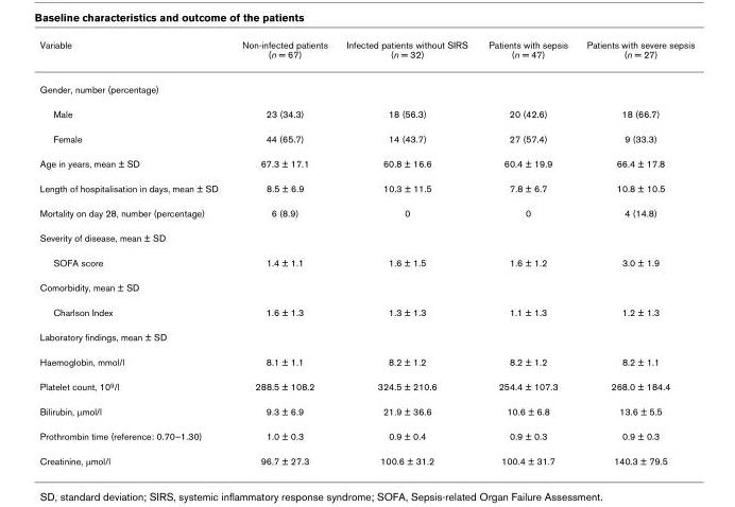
<table><thead><tr><td>Variable</td><td>Non-infected patients (n = 67)</td><td>Infected patients without SIRS (n = 32)</td><td>Patients with sepsis (n = 47)</td><td>Patients with severe sepsis (n = 27)</td></tr></thead><tbody><tr><td colspan="5">Gender, number (percentage)</td></tr><tr><td>Male</td><td>23 (34.3)</td><td>18 (56.3)</td><td>20 (42.6)</td><td>18 (66.7)</td></tr><tr><td>Female</td><td>44 (65.7)</td><td>14 (43.7)</td><td>27 (57.4)</td><td>9 (33.3)</td></tr><tr><td>Age in years, mean ± SD</td><td>67.3 ± 17.1</td><td>60.8 ± 16.6</td><td>60.4 ± 19.9</td><td>66.4 ± 17.8</td></tr><tr><td>Length of hospitalisation in days, mean ± SD</td><td>8.5 ± 6.9</td><td>10.3 ± 11.5</td><td>7.8 ± 6.7</td><td>10.8 ± 10.5</td></tr><tr><td>Mortality on day 28, number (percentage)</td><td>6 (8.9)</td><td>0</td><td>0</td><td>4 (14.8)</td></tr><tr><td colspan="5">Severity of disease, mean ± SD</td></tr><tr><td>SOFA score</td><td>1.4 ± 1.1</td><td>1.6 ± 1.5</td><td>1.6 ± 1.2</td><td>3.0 ± 1.9</td></tr><tr><td colspan="5">Comorbidity, mean ± SD</td></tr><tr><td>Charlson Index</td><td>1.6 ± 1.3</td><td>1.3 ± 1.3</td><td>1.1 ± 1.3</td><td>1.2 ± 1.3</td></tr><tr><td colspan="5">Laboratory findings, mean ± SD</td></tr><tr><td>Haemoglobin, mmol/l</td><td>8.1 ± 1.1</td><td>8.2 ± 1.2</td><td>8.2 ± 1.2</td><td>8.2 ± 1.1</td></tr><tr><td>Platelet count, 10<sup>9</sup>/l</td><td>288.5 ± 108.2</td><td>324.5 ± 210.6</td><td>254.4 ± 107.3</td><td>268.0 ± 184.4</td></tr><tr><td>Bilirubin, μmol/l</td><td>9.3 ± 6.9</td><td>21.9 ± 36.6</td><td>10.6 ± 6.8</td><td>13.6 ± 5.5</td></tr><tr><td>Prothrombin time (reference: 0.70–1.30)</td><td>1.0 ± 0.3</td><td>0.9 ± 0.4</td><td>0.9 ± 0.3</td><td>0.9 ± 0.3</td></tr><tr><td>Creatinine, μmol/l</td><td>96.7 ± 27.3</td><td>100.6 ± 31.2</td><td>100.4 ± 31.7</td><td>140.3 ± 79.5</td></tr></tbody></table>